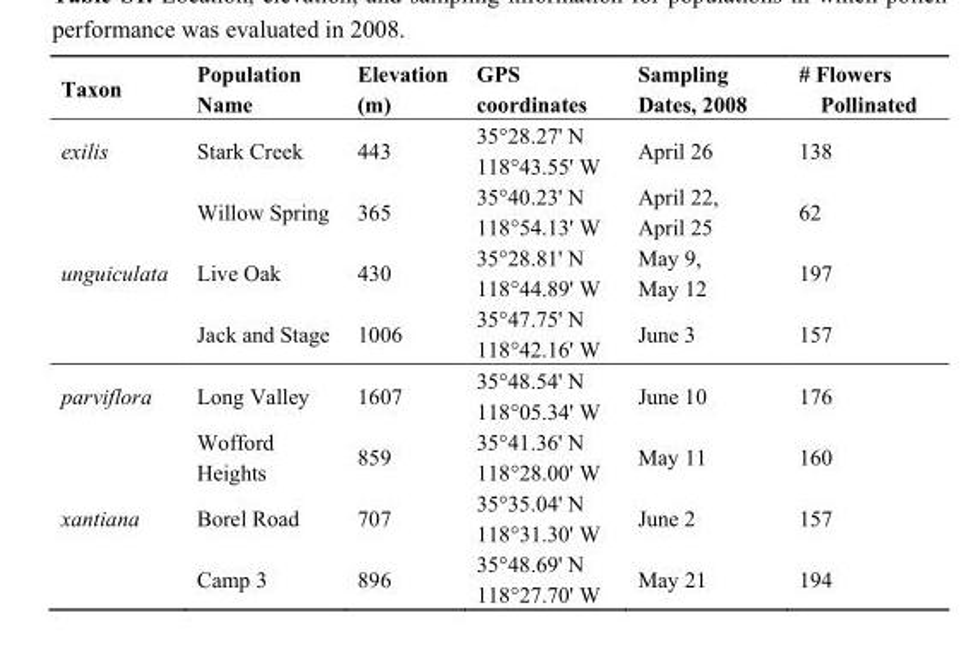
<table><thead><tr><td>Taxon</td><td>Population Name</td><td>Elevation (m)</td><td>GPS coordinates</td><td>Sampling Dates, 2008</td><td># Flowers Pollinated</td></tr></thead><tbody><tr><td rowspan="2">exilis</td><td>Stark Creek</td><td>443</td><td>35°28.27&#x27; N 118°43.55&#x27; W</td><td>April 26</td><td>138</td></tr><tr><td>Willow Spring</td><td>365</td><td>35°40.23&#x27; N 118°54.13&#x27; W</td><td>April 22, April 25</td><td>62</td></tr><tr><td rowspan="2">unguiculata</td><td>Live Oak</td><td>430</td><td>35°28.81&#x27; N 118°44.89&#x27; W</td><td>May 9, May 12</td><td>197</td></tr><tr><td>Jack and Stage</td><td>1006</td><td>35°47.75&#x27; N 118°42.16&#x27; W</td><td>June 3</td><td>157</td></tr><tr><td rowspan="2">parviflora</td><td>Long Valley</td><td>1607</td><td>35°48.54&#x27; N 118°05.34&#x27; W</td><td>June 10</td><td>176</td></tr><tr><td>Wofford Heights</td><td>859</td><td>35°41.36&#x27; N 118°28.00&#x27; W</td><td>May 11</td><td>160</td></tr><tr><td rowspan="2">xantiana</td><td>Borel Road</td><td>707</td><td>35°35.04&#x27; N 118°31.30&#x27; W</td><td>June 2</td><td>157</td></tr><tr><td>Camp 3</td><td>896</td><td>35°48.69&#x27; N 118°27.70&#x27; W</td><td>May 21</td><td>194</td></tr></tbody></table>